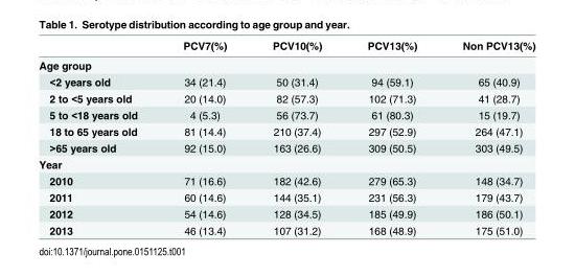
<table><thead><tr><td></td><td>PCV7(%)</td><td>PCV10(%)</td><td>PCV13(%)</td><td>Non PCV13(%)</td></tr></thead><tbody><tr><td colspan="5">Age group</td></tr><tr><td>&lt;2 years old</td><td>34 (21.4)</td><td>50 (31.4)</td><td>94 (59.1)</td><td>65 (40.9)</td></tr><tr><td>2 to &lt;5 years old</td><td>20 (14.0)</td><td>82 (57.3)</td><td>102 (71.3)</td><td>41 (28.7)</td></tr><tr><td>5 to &lt;18 years old</td><td>4 (5.3)</td><td>56 (73.7)</td><td>61 (80.3)</td><td>15 (19.7)</td></tr><tr><td>18 to 65 years old</td><td>81 (14.4)</td><td>210 (37.4)</td><td>297 (52.9)</td><td>264 (47.1)</td></tr><tr><td>&gt;65 years old</td><td>92 (15.0)</td><td>163 (26.6)</td><td>309 (50.5)</td><td>303 (49.5)</td></tr><tr><td colspan="5">Year</td></tr><tr><td>2010</td><td>71 (16.6)</td><td>182 (42.6)</td><td>279 (65.3)</td><td>148 (34.7)</td></tr><tr><td>2011</td><td>60 (14.6)</td><td>144 (35.1)</td><td>231 (56.3)</td><td>179 (43.7)</td></tr><tr><td>2012</td><td>54 (14.6)</td><td>128 (34.5)</td><td>185 (49.9)</td><td>186 (50.1)</td></tr><tr><td>2013</td><td>46 (13.4)</td><td>107 (31.2)</td><td>168 (48.9)</td><td>175 (51.0)</td></tr></tbody></table>